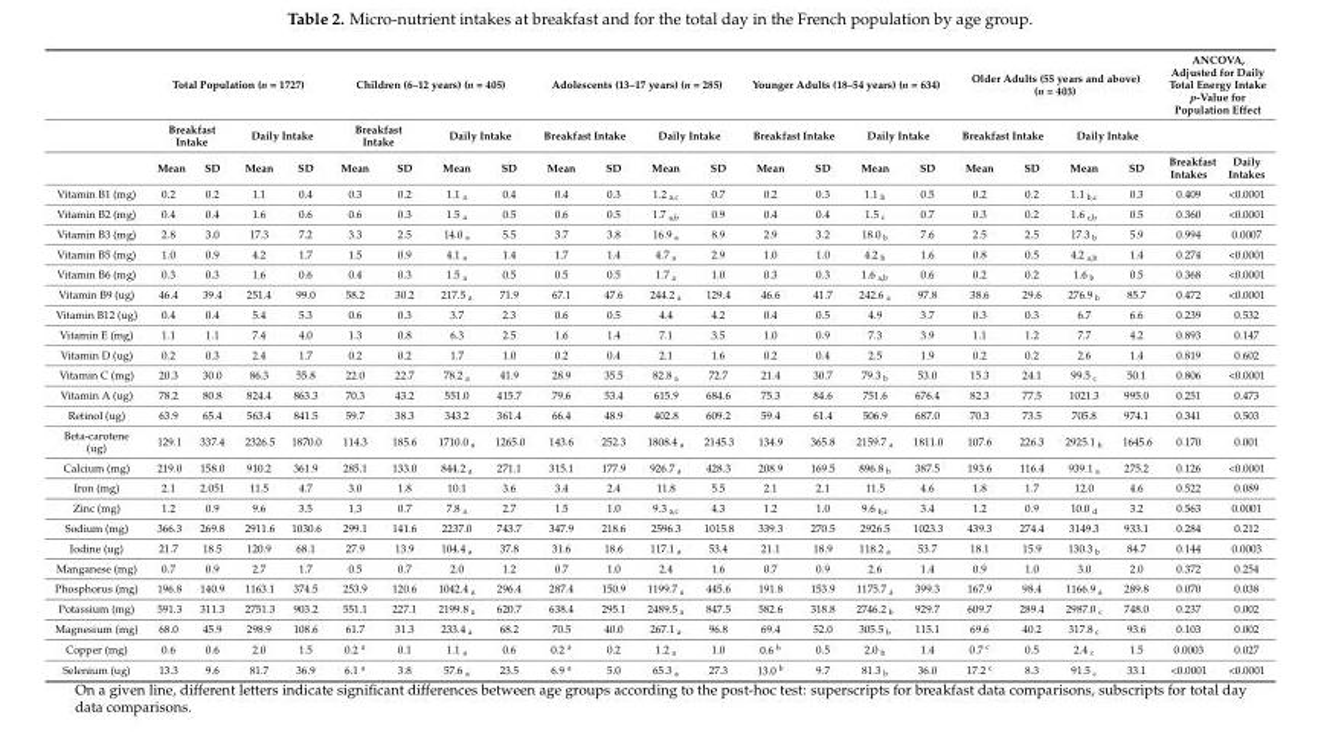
<table><thead><tr><td rowspan="3"></td><td colspan="4">Total Population (n = 1727)</td><td colspan="4">Children (6–12 years) (n = 405)</td><td colspan="4">Adolescents (13–17 years) (n = 285)</td><td colspan="4">Younger Adults (18–54 years) (n = 634)</td><td colspan="4">Older Adults (55 years and above) (n = 403)</td><td colspan="2">ANCOVA, Adjusted for Daily Total Energy Intake p-Value for Population Effect</td></tr><tr><td colspan="2">Breakfast Intake</td><td colspan="2">Daily Intake</td><td colspan="2">Breakfast Intake</td><td colspan="2">Daily Intake</td><td colspan="2">Breakfast Intake</td><td colspan="2">Daily Intake</td><td colspan="2">Breakfast Intake</td><td colspan="2">Daily Intake</td><td colspan="2">Breakfast Intake</td><td colspan="2">Daily Intake</td><td rowspan="2">Breakfast Intakes</td><td rowspan="2">Daily Intakes</td></tr><tr><td>Mean</td><td>SD</td><td>Mean</td><td>SD</td><td>Mean</td><td>SD</td><td>Mean</td><td>SD</td><td>Mean</td><td>SD</td><td>Mean</td><td>SD</td><td>Mean</td><td>SD</td><td>Mean</td><td>SD</td><td>Mean</td><td>SD</td><td>Mean</td><td>SD</td></tr></thead><tbody><tr><td>Vitamin B1 (mg)</td><td>0.2</td><td>0.2</td><td>1.1</td><td>0.4</td><td>0.3</td><td>0.2</td><td>1.1 <sub>a</sub></td><td>0.4</td><td>0.4</td><td>0.3</td><td>1.2 <sub>a,c</sub></td><td>0.7</td><td>0.2</td><td>0.3</td><td>1.1 <sub>b</sub></td><td>0.5</td><td>0.2</td><td>0.2</td><td>1.1 <sub>b,c</sub></td><td>0.3</td><td>0.409</td><td>&lt;0.0001</td></tr><tr><td>Vitamin B2 (mg)</td><td>0.4</td><td>0.4</td><td>1.6</td><td>0.6</td><td>0.6</td><td>0.3</td><td>1.5 <sub>a</sub></td><td>0.5</td><td>0.6</td><td>0.5</td><td>1.7 <sub>a,b</sub></td><td>0.9</td><td>0.4</td><td>0.4</td><td>1.5 <sub>c</sub></td><td>0.7</td><td>0.3</td><td>0.2</td><td>1.6 <sub>c,b</sub></td><td>0.5</td><td>0.360</td><td>&lt;0.0001</td></tr><tr><td>Vitamin B3 (mg)</td><td>2.8</td><td>3.0</td><td>17.3</td><td>7.2</td><td>3.3</td><td>2.5</td><td>14.0 <sub>a</sub></td><td>5.5</td><td>3.7</td><td>3.8</td><td>16.9 <sub>a</sub></td><td>8.9</td><td>2.9</td><td>3.2</td><td>18.0 <sub>b</sub></td><td>7.6</td><td>2.5</td><td>2.5</td><td>17.3 <sub>b</sub></td><td>5.9</td><td>0.994</td><td>0.0007</td></tr><tr><td>Vitamin B5 (mg)</td><td>1.0</td><td>0.9</td><td>4.2</td><td>1.7</td><td>1.5</td><td>0.9</td><td>4.1 <sub>a</sub></td><td>1.4</td><td>1.7</td><td>1.4</td><td>4.7 <sub>a</sub></td><td>2.9</td><td>1.0</td><td>1.0</td><td>4.2 <sub>b</sub></td><td>1.6</td><td>0.8</td><td>0.5</td><td>4.2 <sub>a,b</sub></td><td>1.4</td><td>0.274</td><td>&lt;0.0001</td></tr><tr><td>Vitamin B6 (mg)</td><td>0.3</td><td>0.3</td><td>1.6</td><td>0.6</td><td>0.4</td><td>0.3</td><td>1.5 <sub>a</sub></td><td>0.5</td><td>0.5</td><td>0.5</td><td>1.7 <sub>a</sub></td><td>1.0</td><td>0.3</td><td>0.3</td><td>1.6 <sub>a,b</sub></td><td>0.6</td><td>0.2</td><td>0.2</td><td>1.6 <sub>b</sub></td><td>0.5</td><td>0.368</td><td>&lt;0.0001</td></tr><tr><td>Vitamin B9 (ug)</td><td>46.4</td><td>39.4</td><td>251.4</td><td>99.0</td><td>58.2</td><td>30.2</td><td>217.5 <sub>a</sub></td><td>71.9</td><td>67.1</td><td>47.6</td><td>244.2 <sub>a</sub></td><td>129.4</td><td>46.6</td><td>41.7</td><td>242.6 <sub>a</sub></td><td>97.8</td><td>38.6</td><td>29.6</td><td>276.9 <sub>b</sub></td><td>85.7</td><td>0.472</td><td>&lt;0.0001</td></tr><tr><td>Vitamin B12 (ug)</td><td>0.4</td><td>0.4</td><td>5.4</td><td>5.3</td><td>0.6</td><td>0.3</td><td>3.7</td><td>2.3</td><td>0.6</td><td>0.5</td><td>4.4</td><td>4.2</td><td>0.4</td><td>0.5</td><td>4.9</td><td>3.7</td><td>0.3</td><td>0.3</td><td>6.7</td><td>6.6</td><td>0.239</td><td>0.532</td></tr><tr><td>Vitamin E (mg)</td><td>1.1</td><td>1.1</td><td>7.4</td><td>4.0</td><td>1.3</td><td>0.8</td><td>6.3</td><td>2.5</td><td>1.6</td><td>1.4</td><td>7.1</td><td>3.5</td><td>1.0</td><td>0.9</td><td>7.3</td><td>3.9</td><td>1.1</td><td>1.2</td><td>7.7</td><td>4.2</td><td>0.893</td><td>0.147</td></tr><tr><td>Vitamin D (ug)</td><td>0.2</td><td>0.3</td><td>2.4</td><td>1.7</td><td>0.2</td><td>0.2</td><td>1.7</td><td>1.0</td><td>0.2</td><td>0.4</td><td>2.1</td><td>1.6</td><td>0.2</td><td>0.4</td><td>2.5</td><td>1.9</td><td>0.2</td><td>0.2</td><td>2.6</td><td>1.4</td><td>0.819</td><td>0.602</td></tr><tr><td>Vitamin C (mg)</td><td>20.3</td><td>30.0</td><td>86.3</td><td>55.8</td><td>22.0</td><td>22.7</td><td>78.2 <sub>a</sub></td><td>41.9</td><td>28.9</td><td>35.5</td><td>82.8 <sub>a</sub></td><td>72.7</td><td>21.4</td><td>30.7</td><td>79.3 <sub>b</sub></td><td>53.0</td><td>15.3</td><td>24.1</td><td>99.5 <sub>c</sub></td><td>50.1</td><td>0.806</td><td>&lt;0.0001</td></tr><tr><td>Vitamin A (ug)</td><td>78.2</td><td>80.8</td><td>824.4</td><td>863.3</td><td>70.3</td><td>43.2</td><td>551.0</td><td>415.7</td><td>79.6</td><td>53.4</td><td>615.9</td><td>684.6</td><td>75.3</td><td>84.6</td><td>751.6</td><td>676.4</td><td>82.3</td><td>77.5</td><td>1021.3</td><td>995.0</td><td>0.251</td><td>0.473</td></tr><tr><td>Retinol (ug)</td><td>63.9</td><td>65.4</td><td>563.4</td><td>841.5</td><td>59.7</td><td>38.3</td><td>343.2</td><td>361.4</td><td>66.4</td><td>48.9</td><td>402.8</td><td>609.2</td><td>59.4</td><td>61.4</td><td>506.9</td><td>687.0</td><td>70.3</td><td>73.5</td><td>705.8</td><td>974.1</td><td>0.341</td><td>0.503</td></tr><tr><td>Beta-carotene (ug)</td><td>129.1</td><td>337.4</td><td>2326.5</td><td>1870.0</td><td>114.3</td><td>185.6</td><td>1710.0 <sub>a</sub></td><td>1265.0</td><td>143.6</td><td>252.3</td><td>1808.4 <sub>a</sub></td><td>2145.3</td><td>134.9</td><td>365.8</td><td>2159.7 <sub>a</sub></td><td>1811.0</td><td>107.6</td><td>226.3</td><td>2925.1 <sub>b</sub></td><td>1645.6</td><td>0.170</td><td>0.001</td></tr><tr><td>Calcium (mg)</td><td>219.0</td><td>158.0</td><td>910.2</td><td>361.9</td><td>285.1</td><td>133.0</td><td>844.2 <sub>a</sub></td><td>271.1</td><td>315.1</td><td>177.9</td><td>926.7 <sub>a</sub></td><td>428.3</td><td>208.9</td><td>169.5</td><td>896.8 <sub>b</sub></td><td>387.5</td><td>193.6</td><td>116.4</td><td>939.1 <sub>a</sub></td><td>275.2</td><td>0.126</td><td>&lt;0.0001</td></tr><tr><td>Iron (mg)</td><td>2.1</td><td>2.051</td><td>11.5</td><td>4.7</td><td>3.0</td><td>1.8</td><td>10.1</td><td>3.6</td><td>3.4</td><td>2.4</td><td>11.8</td><td>5.5</td><td>2.1</td><td>2.1</td><td>11.5</td><td>4.6</td><td>1.8</td><td>1.7</td><td>12.0</td><td>4.6</td><td>0.522</td><td>0.089</td></tr><tr><td>Zinc (mg)</td><td>1.2</td><td>0.9</td><td>9.6</td><td>3.5</td><td>1.3</td><td>0.7</td><td>7.8 <sub>a</sub></td><td>2.7</td><td>1.5</td><td>1.0</td><td>9.3 <sub>a,c</sub></td><td>4.3</td><td>1.2</td><td>1.0</td><td>9.6 <sub>b,c</sub></td><td>3.4</td><td>1.2</td><td>0.9</td><td>10.0 <sub>d</sub></td><td>3.2</td><td>0.563</td><td>0.0001</td></tr><tr><td>Sodium (mg)</td><td>366.3</td><td>269.8</td><td>2911.6</td><td>1030.6</td><td>299.1</td><td>141.6</td><td>2237.0</td><td>743.7</td><td>347.9</td><td>218.6</td><td>2596.3</td><td>1015.8</td><td>339.3</td><td>270.5</td><td>2926.5</td><td>1023.3</td><td>439.3</td><td>274.4</td><td>3149.3</td><td>933.1</td><td>0.284</td><td>0.212</td></tr><tr><td>Iodine (ug)</td><td>21.7</td><td>18.5</td><td>120.9</td><td>68.1</td><td>27.9</td><td>13.9</td><td>104.4 <sub>a</sub></td><td>37.8</td><td>31.6</td><td>18.6</td><td>117.1 <sub>a</sub></td><td>53.4</td><td>21.1</td><td>18.9</td><td>118.2 <sub>a</sub></td><td>53.7</td><td>18.1</td><td>15.9</td><td>130.3 <sub>b</sub></td><td>84.7</td><td>0.144</td><td>0.0003</td></tr><tr><td>Manganese (mg)</td><td>0.7</td><td>0.9</td><td>2.7</td><td>1.7</td><td>0.5</td><td>0.7</td><td>2.0</td><td>1.2</td><td>0.7</td><td>1.0</td><td>2.4</td><td>1.6</td><td>0.7</td><td>0.9</td><td>2.6</td><td>1.4</td><td>0.9</td><td>1.0</td><td>3.0</td><td>2.0</td><td>0.372</td><td>0.254</td></tr><tr><td>Phosphorus (mg)</td><td>196.8</td><td>140.9</td><td>1163.1</td><td>374.5</td><td>253.9</td><td>120.6</td><td>1042.4 <sub>a</sub></td><td>296.4</td><td>287.4</td><td>150.9</td><td>1199.7 <sub>a</sub></td><td>445.6</td><td>191.8</td><td>153.9</td><td>1175.7 <sub>a</sub></td><td>399.3</td><td>167.9</td><td>98.4</td><td>1166.9 <sub>a</sub></td><td>289.8</td><td>0.070</td><td>0.038</td></tr><tr><td>Potassium (mg)</td><td>591.3</td><td>311.3</td><td>2751.3</td><td>903.2</td><td>551.1</td><td>227.1</td><td>2199.8 <sub>a</sub></td><td>620.7</td><td>638.4</td><td>295.1</td><td>2489.5 <sub>a</sub></td><td>847.5</td><td>582.6</td><td>318.8</td><td>2746.2 <sub>b</sub></td><td>929.7</td><td>609.7</td><td>289.4</td><td>2987.0 <sub>c</sub></td><td>748.0</td><td>0.237</td><td>0.002</td></tr><tr><td>Magnesium (mg)</td><td>68.0</td><td>45.9</td><td>298.9</td><td>108.6</td><td>61.7</td><td>31.3</td><td>233.4 <sub>a</sub></td><td>68.2</td><td>70.5</td><td>40.0</td><td>267.1 <sub>a</sub></td><td>96.8</td><td>69.4</td><td>52.0</td><td>305.5 <sub>b</sub></td><td>115.1</td><td>69.6</td><td>40.2</td><td>317.8 <sub>c</sub></td><td>93.6</td><td>0.103</td><td>0.002</td></tr><tr><td>Copper (mg)</td><td>0.6</td><td>0.6</td><td>2.0</td><td>1.5</td><td>0.2 <sup>a</sup></td><td>0.1</td><td>1.1 <sub>a</sub></td><td>0.6</td><td>0.2 <sup>a</sup></td><td>0.2</td><td>1.2 <sub>a</sub></td><td>1.0</td><td>0.6 <sup>b</sup></td><td>0.5</td><td>2.0 <sub>b</sub></td><td>1.4</td><td>0.7 <sup>c</sup></td><td>0.5</td><td>2.4 <sub>c</sub></td><td>1.5</td><td>0.0003</td><td>0.027</td></tr><tr><td>Selenium (ug)</td><td>13.3</td><td>9.6</td><td>81.7</td><td>36.9</td><td>6.1 <sup>a</sup></td><td>3.8</td><td>57.6 <sub>a</sub></td><td>23.5</td><td>6.9 <sup>a</sup></td><td>5.0</td><td>65.3 <sub>a</sub></td><td>27.3</td><td>13.0 <sup>b</sup></td><td>9.7</td><td>81.3 <sub>b</sub></td><td>36.0</td><td>17.2 <sup>c</sup></td><td>8.3</td><td>91.5 <sub>c</sub></td><td>33.1</td><td>&lt;0.0001</td><td>&lt;0.0001</td></tr></tbody></table>